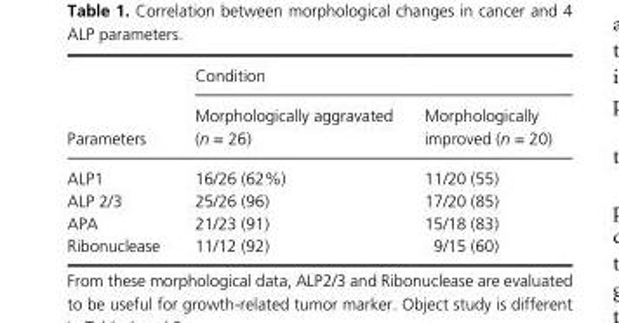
<table><thead><tr><td rowspan="2">Parameters</td><td colspan="2">Condition</td></tr><tr><td>Morphologically aggravated (n = 26)</td><td>Morphologically improved (n = 20)</td></tr></thead><tbody><tr><td>ALP1</td><td>16/26 (62%)</td><td>11/20 (55)</td></tr><tr><td>ALP 2/3</td><td>25/26 (96)</td><td>17/20 (85)</td></tr><tr><td>APA</td><td>21/23 (91)</td><td>15/18 (83)</td></tr><tr><td>Ribonuclease</td><td>11/12 (92)</td><td>9/15 (60)</td></tr></tbody></table>